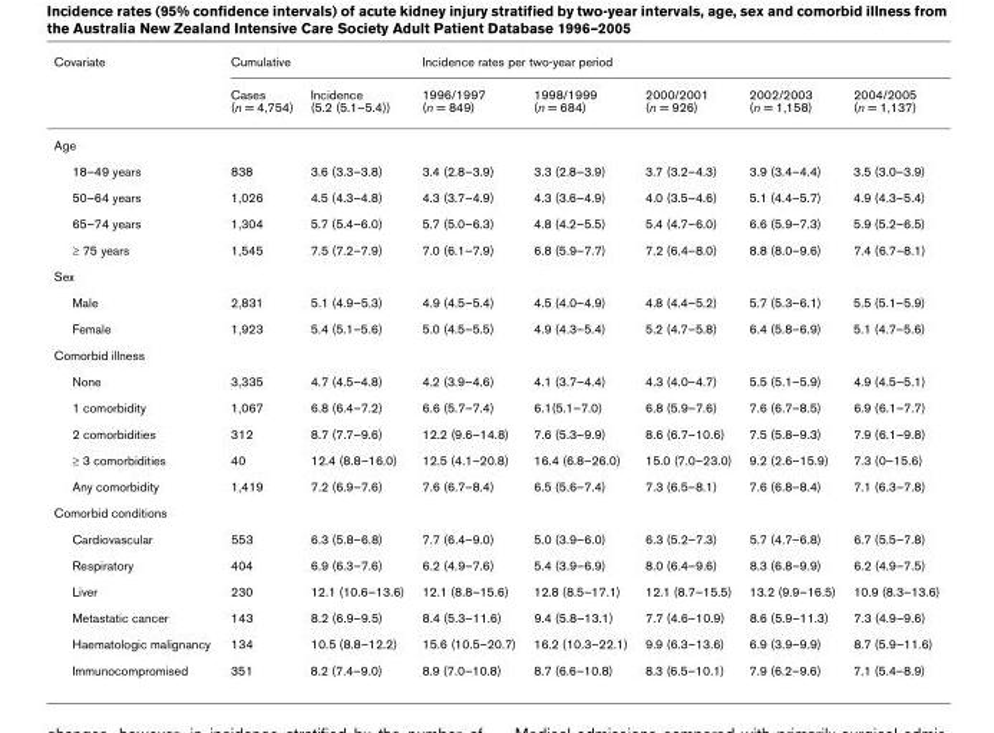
<table><thead><tr><td rowspan="2">Covariate</td><td colspan="2">Cumulative</td><td colspan="5">Incidence rates per two-year period</td></tr><tr><td>Cases (n = 4,754)</td><td>Incidence (5.2 (5.1–5.4))</td><td>1996/1997 (n = 849)</td><td>1998/1999 (n = 684)</td><td>2000/2001 (n = 926)</td><td>2002/2003 (n = 1,158)</td><td>2004/2005 (n = 1,137)</td></tr></thead><tbody><tr><td colspan="8">Age</td></tr><tr><td>18–49 years</td><td>838</td><td>3.6 (3.3–3.8)</td><td>3.4 (2.8–3.9)</td><td>3.3 (2.8–3.9)</td><td>3.7 (3.2–4.3)</td><td>3.9 (3.4–4.4)</td><td>3.5 (3.0–3.9)</td></tr><tr><td>50–64 years</td><td>1,026</td><td>4.5 (4.3–4.8)</td><td>4.3 (3.7–4.9)</td><td>4.3 (3.6–4.9)</td><td>4.0 (3.5–4.6)</td><td>5.1 (4.4–5.7)</td><td>4.9 (4.3–5.4)</td></tr><tr><td>65–74 years</td><td>1,304</td><td>5.7 (5.4–6.0)</td><td>5.7 (5.0–6.3)</td><td>4.8 (4.2–5.5)</td><td>5.4 (4.7–6.0)</td><td>6.6 (5.9–7.3)</td><td>5.9 (5.2–6.5)</td></tr><tr><td>≥ 75 years</td><td>1,545</td><td>7.5 (7.2–7.9)</td><td>7.0 (6.1–7.9)</td><td>6.8 (5.9–7.7)</td><td>7.2 (6.4–8.0)</td><td>8.8 (8.0–9.6)</td><td>7.4 (6.7–8.1)</td></tr><tr><td colspan="8">Sex</td></tr><tr><td>Male</td><td>2,831</td><td>5.1 (4.9–5.3)</td><td>4.9 (4.5–5.4)</td><td>4.5 (4.0–4.9)</td><td>4.8 (4.4–5.2)</td><td>5.7 (5.3–6.1)</td><td>5.5 (5.1–5.9)</td></tr><tr><td>Female</td><td>1,923</td><td>5.4 (5.1–5.6)</td><td>5.0 (4.5–5.5)</td><td>4.9 (4.3–5.4)</td><td>5.2 (4.7–5.8)</td><td>6.4 (5.8–6.9)</td><td>5.1 (4.7–5.6)</td></tr><tr><td colspan="8">Comorbid illness</td></tr><tr><td>None</td><td>3,335</td><td>4.7 (4.5–4.8)</td><td>4.2 (3.9–4.6)</td><td>4.1 (3.7–4.4)</td><td>4.3 (4.0–4.7)</td><td>5.5 (5.1–5.9)</td><td>4.9 (4.5–5.1)</td></tr><tr><td>1 comorbidity</td><td>1,067</td><td>6.8 (6.4–7.2)</td><td>6.6 (5.7–7.4)</td><td>6.1(5.1–7.0)</td><td>6.8 (5.9–7.6)</td><td>7.6 (6.7–8.5)</td><td>6.9 (6.1–7.7)</td></tr><tr><td>2 comorbidities</td><td>312</td><td>8.7 (7.7–9.6)</td><td>12.2 (9.6–14.8)</td><td>7.6 (5.3–9.9)</td><td>8.6 (6.7–10.6)</td><td>7.5 (5.8–9.3)</td><td>7.9 (6.1–9.8)</td></tr><tr><td>≥ 3 comorbidities</td><td>40</td><td>12.4 (8.8–16.0)</td><td>12.5 (4.1–20.8)</td><td>16.4 (6.8–26.0)</td><td>15.0 (7.0–23.0)</td><td>9.2 (2.6–15.9)</td><td>7.3 (0–15.6)</td></tr><tr><td>Any comorbidity</td><td>1,419</td><td>7.2 (6.9–7.6)</td><td>7.6 (6.7–8.4)</td><td>6.5 (5.6–7.4)</td><td>7.3 (6.5–8.1)</td><td>7.6 (6.8–8.4)</td><td>7.1 (6.3–7.8)</td></tr><tr><td colspan="8">Comorbid conditions</td></tr><tr><td>Cardiovascular</td><td>553</td><td>6.3 (5.8–6.8)</td><td>7.7 (6.4–9.0)</td><td>5.0 (3.9–6.0)</td><td>6.3 (5.2–7.3)</td><td>5.7 (4.7–6.8)</td><td>6.7 (5.5–7.8)</td></tr><tr><td>Respiratory</td><td>404</td><td>6.9 (6.3–7.6)</td><td>6.2 (4.9–7.6)</td><td>5.4 (3.9–6.9)</td><td>8.0 (6.4–9.6)</td><td>8.3 (6.8–9.9)</td><td>6.2 (4.9–7.5)</td></tr><tr><td>Liver</td><td>230</td><td>12.1 (10.6–13.6)</td><td>12.1 (8.8–15.6)</td><td>12.8 (8.5–17.1)</td><td>12.1 (8.7–15.5)</td><td>13.2 (9.9–16.5)</td><td>10.9 (8.3–13.6)</td></tr><tr><td>Metastatic cancer</td><td>143</td><td>8.2 (6.9–9.5)</td><td>8.4 (5.3–11.6)</td><td>9.4 (5.8–13.1)</td><td>7.7 (4.6–10.9)</td><td>8.6 (5.9–11.3)</td><td>7.3 (4.9–9.6)</td></tr><tr><td>Haematologic malignancy</td><td>134</td><td>10.5 (8.8–12.2)</td><td>15.6 (10.5–20.7)</td><td>16.2 (10.3–22.1)</td><td>9.9 (6.3–13.6)</td><td>6.9 (3.9–9.9)</td><td>8.7 (5.9–11.6)</td></tr><tr><td>Immunocompromised</td><td>351</td><td>8.2 (7.4–9.0)</td><td>8.9 (7.0–10.8)</td><td>8.7 (6.6–10.8)</td><td>8.3 (6.5–10.1)</td><td>7.9 (6.2–9.6)</td><td>7.1 (5.4–8.9)</td></tr></tbody></table>